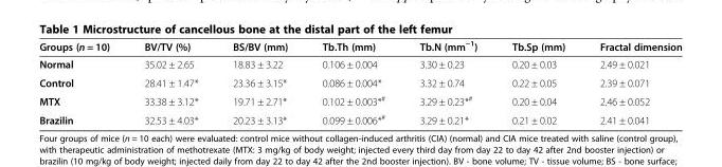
<table><thead><tr><td>Groups (n = 10)</td><td>BV/TV (%)</td><td>BS/BV (mm)</td><td>Tb.Th (mm)</td><td>Tb.N (mm<sup>−1</sup>)</td><td>Tb.Sp (mm)</td><td>Fractal dimension</td></tr></thead><tbody><tr><td>Normal</td><td>35.02 ± 2.65</td><td>18.83 ± 3.22</td><td>0.106 ± 0.004</td><td>3.30 ± 0.23</td><td>0.20 ± 0.03</td><td>2.49 ± 0.021</td></tr><tr><td>Control</td><td>28.41 ± 1.47*</td><td>23.36 ± 3.15*</td><td>0.086 ± 0.004*</td><td>3.32 ± 0.74</td><td>0.22 ± 0.05</td><td>2.39 ± 0.071</td></tr><tr><td>MTX</td><td>33.38 ± 3.12*</td><td>19.71 ± 2.71*</td><td>0.102 ± 0.003*<sup>#</sup></td><td>3.29 ± 0.23*<sup>#</sup></td><td>0.20 ± 0.04</td><td>2.46 ± 0.052</td></tr><tr><td>Brazilin</td><td>32.53 ± 4.03*</td><td>20.23 ± 3.13*</td><td>0.099 ± 0.006*<sup>#</sup></td><td>3.29 ± 0.21*</td><td>0.21 ± 0.02</td><td>2.41 ± 0.041</td></tr></tbody></table>